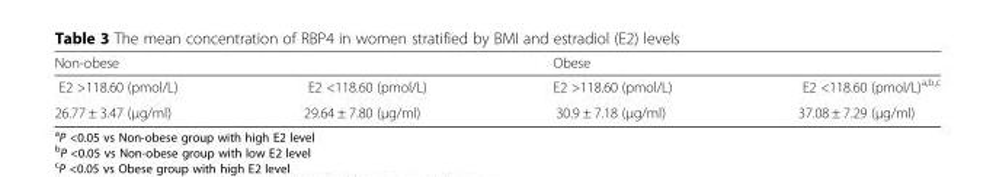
<table><thead><tr><td colspan="2">Non-obese</td><td colspan="2">Obese</td></tr><tr><td>E2 &gt;118.60 (pmol/L)</td><td>E2 &lt;118.60 (pmol/L)</td><td>E2 &gt;118.60 (pmol/L)</td><td>E2 &lt;118.60 (pmol/L)<sup>a,b,c</sup></td></tr></thead><tbody><tr><td>26.77 ± 3.47 (μg/ml)</td><td>29.64 ± 7.80 (μg/ml)</td><td>30.9 ± 7.18 (μg/ml)</td><td>37.08 ± 7.29 (μg/ml)</td></tr></tbody></table>